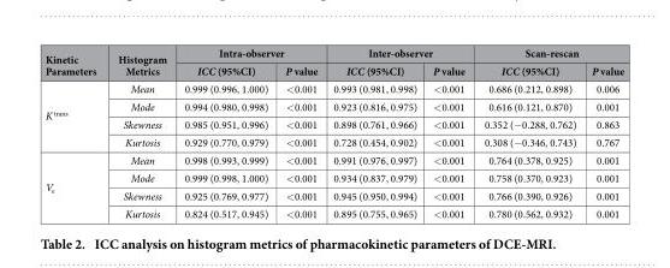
<table><thead><tr><td rowspan="2">Kinetic Parameters</td><td rowspan="2">Histogram Metrics</td><td colspan="2">Intra-observer</td><td colspan="2">Inter-observer</td><td colspan="2">Scan-rescan</td></tr><tr><td>ICC (95%CI)</td><td>P value</td><td>ICC (95%CI)</td><td>P value</td><td>ICC (95%CI)</td><td>P value</td></tr></thead><tbody><tr><td rowspan="4">K <sup>trans</sup></td><td>Mean</td><td>0.999 (0.996, 1.000)</td><td>&lt; 0.001</td><td>0.993 (0.981, 0.998)</td><td>&lt; 0.001</td><td>0.686 (0.212, 0.898)</td><td>0.006</td></tr><tr><td>Mode</td><td>0.994 (0.980, 0.998)</td><td>&lt; 0.001</td><td>0.923 (0.816, 0.975)</td><td>&lt; 0.001</td><td>0.616 (0.121, 0.870)</td><td>0.001</td></tr><tr><td>Skewness</td><td>0.985 (0.951, 0.996)</td><td>&lt; 0.001</td><td>0.898 (0.761, 0.966)</td><td>&lt; 0.001</td><td>0.352 (− 0.288, 0.762)</td><td>0.863</td></tr><tr><td>Kurtosis</td><td>0.929 (0.770, 0.979)</td><td>&lt; 0.001</td><td>0.728 (0.454, 0.902)</td><td>&lt; 0.001</td><td>0.308 (− 0.346, 0.743)</td><td>0.767</td></tr><tr><td rowspan="4">V<sub>e</sub></td><td>Mean</td><td>0.998 (0.993, 0.999)</td><td>&lt; 0.001</td><td>0.991 (0.976, 0.997)</td><td>&lt; 0.001</td><td>0.764 (0.378, 0.925)</td><td>0.001</td></tr><tr><td>Mode</td><td>0.999 (0.998, 1.000)</td><td>&lt; 0.001</td><td>0.934 (0.837, 0.979)</td><td>&lt; 0.001</td><td>0.758 (0.370, 0.923)</td><td>0.001</td></tr><tr><td>Skewness</td><td>0.925 (0.769, 0.977)</td><td>&lt; 0.001</td><td>0.945 (0.950, 0.994)</td><td>&lt; 0.001</td><td>0.766 (0.390, 0.926)</td><td>0.001</td></tr><tr><td>Kurtosis</td><td>0.824 (0.517, 0.945)</td><td>&lt; 0.001</td><td>0.895 (0.755, 0.965)</td><td>&lt; 0.001</td><td>0.780 (0.562, 0.932)</td><td>0.001</td></tr></tbody></table>